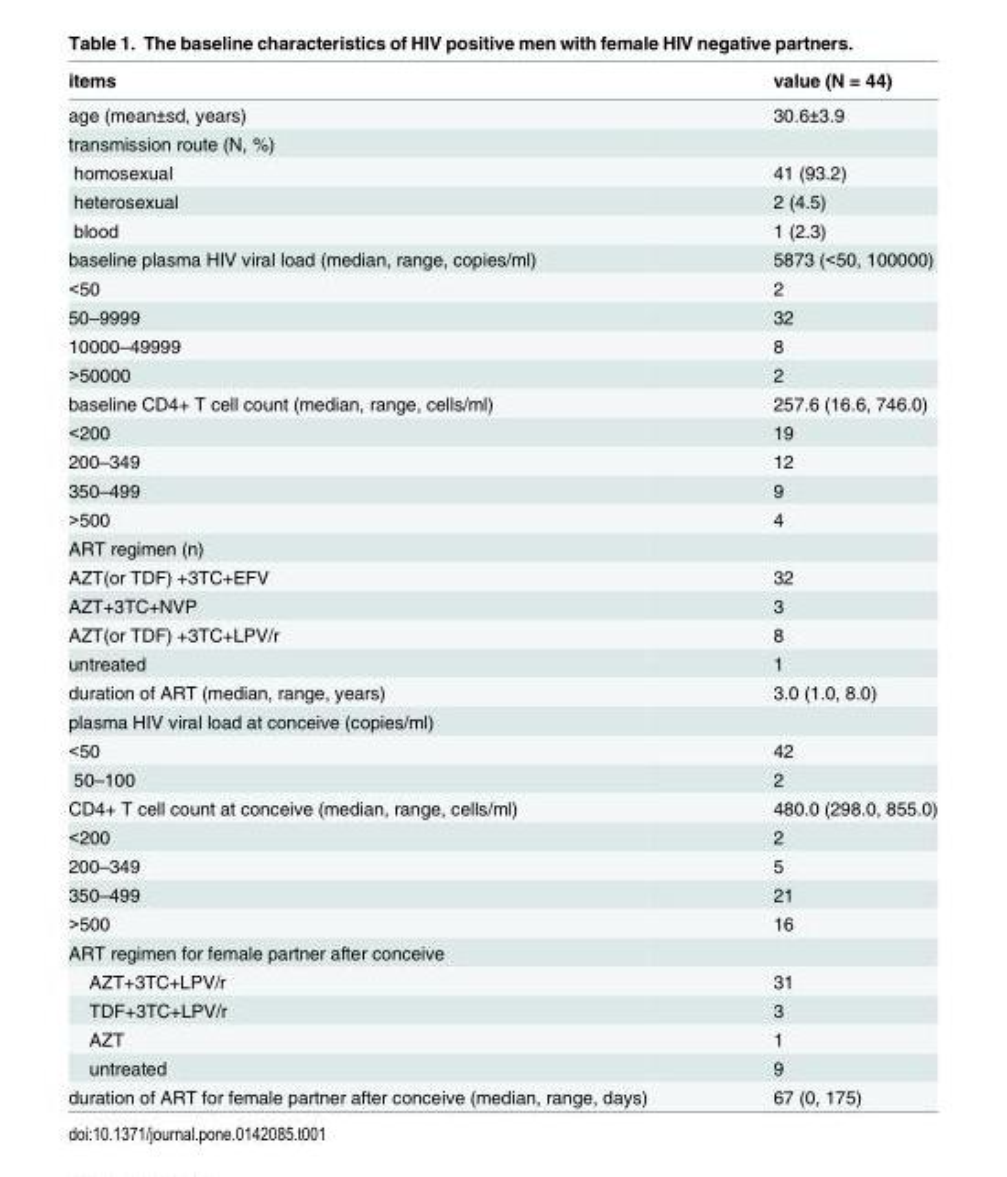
<table><thead><tr><td>items</td><td>value (N = 44)</td></tr></thead><tbody><tr><td>age (mean±sd, years)</td><td>30.6±3.9</td></tr><tr><td colspan="2">transmission route (N, %)</td></tr><tr><td>homosexual</td><td>41 (93.2)</td></tr><tr><td>heterosexual</td><td>2 (4.5)</td></tr><tr><td>blood</td><td>1 (2.3)</td></tr><tr><td>baseline plasma HIV viral load (median, range, copies/ml)</td><td>5873 (&lt;50, 100000)</td></tr><tr><td>&lt;50</td><td>2</td></tr><tr><td>50–9999</td><td>32</td></tr><tr><td>10000–49999</td><td>8</td></tr><tr><td>&gt;50000</td><td>2</td></tr><tr><td>baseline CD4+ T cell count (median, range, cells/ml)</td><td>257.6 (16.6, 746.0)</td></tr><tr><td>&lt;200</td><td>19</td></tr><tr><td>200–349</td><td>12</td></tr><tr><td>350–499</td><td>9</td></tr><tr><td>&gt;500</td><td>4</td></tr><tr><td colspan="2">ART regimen (n)</td></tr><tr><td>AZT(or TDF) +3TC+EFV</td><td>32</td></tr><tr><td>AZT+3TC+NVP</td><td>3</td></tr><tr><td>AZT(or TDF) +3TC+LPV/r</td><td>8</td></tr><tr><td>untreated</td><td>1</td></tr><tr><td>duration of ART (median, range, years)</td><td>3.0 (1.0, 8.0)</td></tr><tr><td colspan="2">plasma HIV viral load at conceive (copies/ml)</td></tr><tr><td>&lt;50</td><td>42</td></tr><tr><td>50–100</td><td>2</td></tr><tr><td>CD4+ T cell count at conceive (median, range, cells/ml)</td><td>480.0 (298.0, 855.0)</td></tr><tr><td>&lt;200</td><td>2</td></tr><tr><td>200–349</td><td>5</td></tr><tr><td>350–499</td><td>21</td></tr><tr><td>&gt;500</td><td>16</td></tr><tr><td colspan="2">ART regimen for female partner after conceive</td></tr><tr><td>AZT+3TC+LPV/r</td><td>31</td></tr><tr><td>TDF+3TC+LPV/r</td><td>3</td></tr><tr><td>AZT</td><td>1</td></tr><tr><td>untreated</td><td>9</td></tr><tr><td>duration of ART for female partner after conceive (median, range, days)</td><td>67 (0, 175)</td></tr></tbody></table>